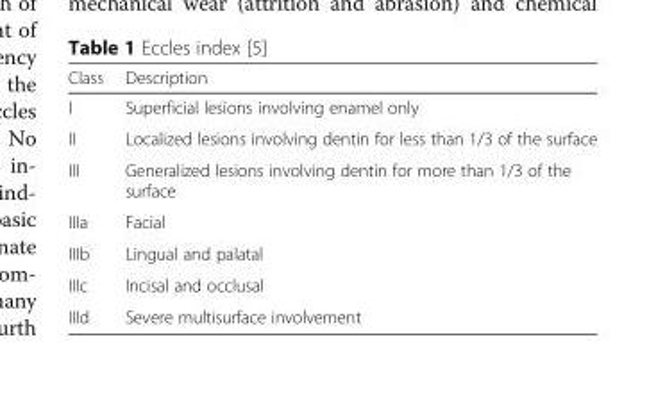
<table><thead><tr><td>Class</td><td>Description</td></tr></thead><tbody><tr><td>I</td><td>Superficial lesions involving enamel only</td></tr><tr><td>II</td><td>Localized lesions involving dentin for less than 1/3 of the surface</td></tr><tr><td>III</td><td>Generalized lesions involving dentin for more than 1/3 of the surface</td></tr><tr><td>IIIa</td><td>Facial</td></tr><tr><td>IIIb</td><td>Lingual and palatal</td></tr><tr><td>IIIc</td><td>Incisal and occlusal</td></tr><tr><td>IIId</td><td>Severe multisurface involvement</td></tr></tbody></table>